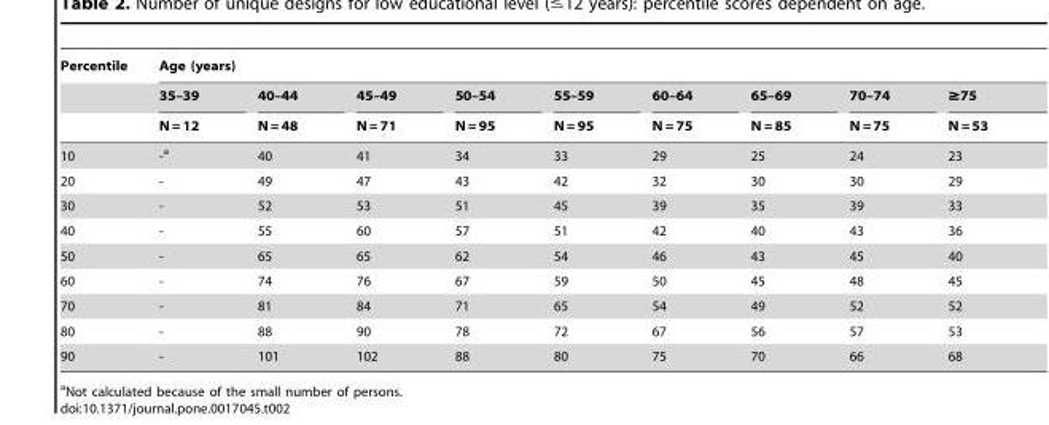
<table><thead><tr><td rowspan="3">Percentile</td><td colspan="9">Age (years)</td></tr><tr><td rowspan="2">35–39 N = 12</td><td rowspan="2">40–44 N = 48</td><td rowspan="2">45–49 N = 71</td><td rowspan="2">50–54 N = 95</td><td rowspan="2">55–59 N = 95</td><td rowspan="2">60–64 N = 75</td><td rowspan="2">65–69 N = 85</td><td rowspan="2">70–74 N = 75</td><td rowspan="2">≥75 N = 53</td></tr><tr></tr></thead><tbody><tr><td>10</td><td>-a</td><td>40</td><td>41</td><td>34</td><td>33</td><td>29</td><td>25</td><td>24</td><td>23</td></tr><tr><td>20</td><td>-</td><td>49</td><td>47</td><td>43</td><td>42</td><td>32</td><td>30</td><td>30</td><td>29</td></tr><tr><td>30</td><td>-</td><td>52</td><td>53</td><td>51</td><td>45</td><td>39</td><td>35</td><td>39</td><td>33</td></tr><tr><td>40</td><td>-</td><td>55</td><td>60</td><td>57</td><td>51</td><td>42</td><td>40</td><td>43</td><td>36</td></tr><tr><td>50</td><td>-</td><td>65</td><td>65</td><td>62</td><td>54</td><td>46</td><td>43</td><td>45</td><td>40</td></tr><tr><td>60</td><td>-</td><td>74</td><td>76</td><td>67</td><td>59</td><td>50</td><td>45</td><td>48</td><td>45</td></tr><tr><td>70</td><td>-</td><td>81</td><td>84</td><td>71</td><td>65</td><td>54</td><td>49</td><td>52</td><td>52</td></tr><tr><td>80</td><td>-</td><td>88</td><td>90</td><td>78</td><td>72</td><td>67</td><td>56</td><td>57</td><td>53</td></tr><tr><td>90</td><td>-</td><td>101</td><td>102</td><td>88</td><td>80</td><td>75</td><td>70</td><td>66</td><td>68</td></tr></tbody></table>